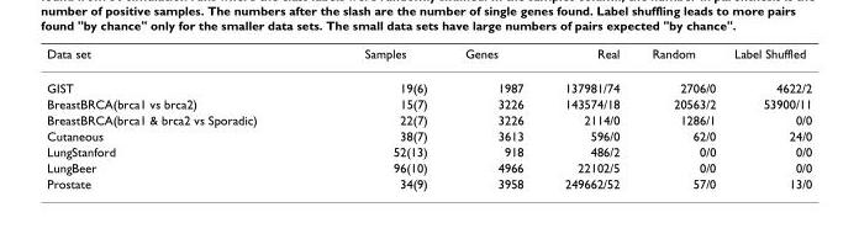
<table><thead><tr><td>Data set</td><td>Samples</td><td>Genes</td><td>Real</td><td>Random</td><td>Label Shuffled</td></tr></thead><tbody><tr><td>GIST</td><td>19(6)</td><td>1987</td><td>137981/74</td><td>2706/0</td><td>4622/2</td></tr><tr><td>BreastBRCA(brca1 vs brca2)</td><td>15(7)</td><td>3226</td><td>143574/18</td><td>20563/2</td><td>53900/11</td></tr><tr><td>BreastBRCA(brca1 &amp; brca2 vs Sporadic)</td><td>22(7)</td><td>3226</td><td>2114/0</td><td>1286/1</td><td>0/0</td></tr><tr><td>Cutaneous</td><td>38(7)</td><td>3613</td><td>596/0</td><td>62/0</td><td>24/0</td></tr><tr><td>LungStanford</td><td>52(13)</td><td>918</td><td>486/2</td><td>0/0</td><td>0/0</td></tr><tr><td>LungBeer</td><td>96(10)</td><td>4966</td><td>22102/5</td><td>0/0</td><td>0/0</td></tr><tr><td>Prostate</td><td>34(9)</td><td>3958</td><td>249662/52</td><td>57/0</td><td>13/0</td></tr></tbody></table>